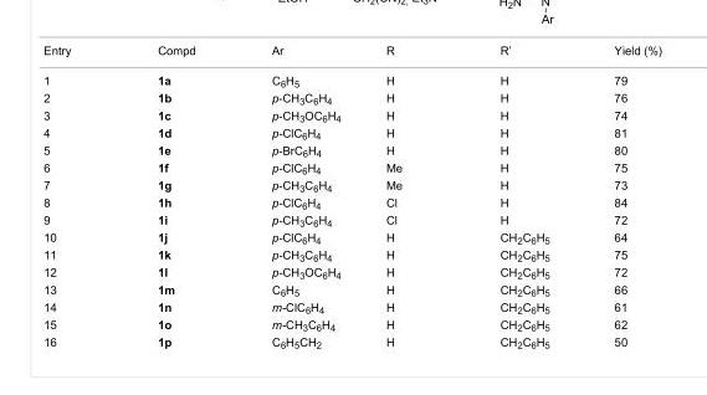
<table><tbody><tr><td>Entry</td><td>Compd</td><td>Ar</td><td>R</td><td>R’</td><td>Yield (%)</td></tr><tr><td>1</td><td>1a</td><td>C<sub>6</sub>H<sub>5</sub></td><td>H</td><td>H</td><td>79</td></tr><tr><td>2</td><td>1b</td><td>p-CH<sub>3</sub>C<sub>6</sub>H<sub>4</sub></td><td>H</td><td>H</td><td>76</td></tr><tr><td>3</td><td>1c</td><td>p-CH<sub>3</sub>OC<sub>6</sub>H<sub>4</sub></td><td>H</td><td>H</td><td>74</td></tr><tr><td>4</td><td>1d</td><td>p-ClC<sub>6</sub>H<sub>4</sub></td><td>H</td><td>H</td><td>81</td></tr><tr><td>5</td><td>1e</td><td>p-BrC<sub>6</sub>H<sub>4</sub></td><td>H</td><td>H</td><td>80</td></tr><tr><td>6</td><td>1f</td><td>p-ClC<sub>6</sub>H<sub>4</sub></td><td>Me</td><td>H</td><td>75</td></tr><tr><td>7</td><td>1g</td><td>p-CH<sub>3</sub>C<sub>6</sub>H<sub>4</sub></td><td>Me</td><td>H</td><td>73</td></tr><tr><td>8</td><td>1h</td><td>p-ClC<sub>6</sub>H<sub>4</sub></td><td>Cl</td><td>H</td><td>84</td></tr><tr><td>9</td><td>1i</td><td>p-CH<sub>3</sub>C<sub>6</sub>H<sub>4</sub></td><td>Cl</td><td>H</td><td>72</td></tr><tr><td>10</td><td>1j</td><td>p-ClC<sub>6</sub>H<sub>4</sub></td><td>H</td><td>CH<sub>2</sub>C<sub>6</sub>H<sub>5</sub></td><td>64</td></tr><tr><td>11</td><td>1k</td><td>p-CH<sub>3</sub>C<sub>6</sub>H<sub>4</sub></td><td>H</td><td>CH<sub>2</sub>C<sub>6</sub>H<sub>5</sub></td><td>75</td></tr><tr><td>12</td><td>1l</td><td>p-CH<sub>3</sub>OC<sub>6</sub>H<sub>4</sub></td><td>H</td><td>CH<sub>2</sub>C<sub>6</sub>H<sub>5</sub></td><td>72</td></tr><tr><td>13</td><td>1m</td><td>C<sub>6</sub>H<sub>5</sub></td><td>H</td><td>CH<sub>2</sub>C<sub>6</sub>H<sub>5</sub></td><td>66</td></tr><tr><td>14</td><td>1n</td><td>m-ClC<sub>6</sub>H<sub>4</sub></td><td>H</td><td>CH<sub>2</sub>C<sub>6</sub>H<sub>5</sub></td><td>61</td></tr><tr><td>15</td><td>1o</td><td>m-CH<sub>3</sub>C<sub>6</sub>H<sub>4</sub></td><td>H</td><td>CH<sub>2</sub>C<sub>6</sub>H<sub>5</sub></td><td>62</td></tr><tr><td>16</td><td>1p</td><td>C<sub>6</sub>H<sub>5</sub>CH<sub>2</sub></td><td>H</td><td>CH<sub>2</sub>C<sub>6</sub>H<sub>5</sub></td><td>50</td></tr></tbody></table>